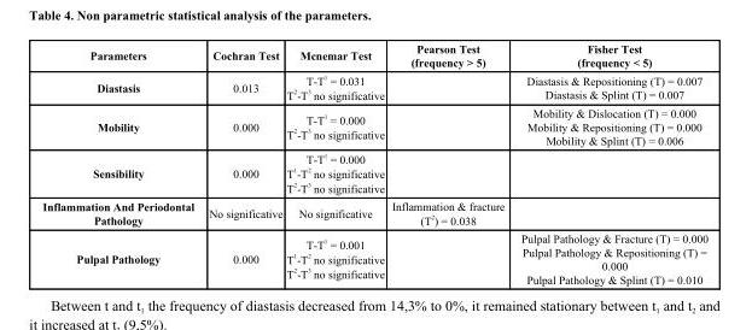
<table><thead><tr><td>Parameters</td><td>Cochran Test</td><td>Mcnemar Test</td><td>Pearson Test (frequency &gt; 5)</td><td>Fisher Test (frequency &lt; 5)</td></tr></thead><tbody><tr><td>Diastasis</td><td>0.013</td><td>T-T 1 = 0.031 T 2-T 3 no significative</td><td></td><td>Diastasis &amp; Repositioning (T) = 0.007 Diastasis &amp; Splint (T) = 0.007</td></tr><tr><td>Mobility</td><td>0.000</td><td>T-T 1 = 0.000 T 2-T 3 no significative</td><td></td><td>Mobility &amp; Dislocation (T) = 0.000 Mobility &amp; Repositioning (T) = 0.000 Mobility &amp; Splint (T) = 0.006</td></tr><tr><td>Sensibility</td><td>0.000</td><td>T-T 1 = 0.000 T 1-T 2 no significative T 2-T 3 no significative</td><td></td><td></td></tr><tr><td>Inflammation And Periodontal Pathology</td><td>No significative</td><td>No significative</td><td>Inflammation &amp; fracture (T <sup>2</sup>) = 0.038</td><td></td></tr><tr><td>Pulpal Pathology</td><td>0.000</td><td>T-T 1 = 0.001 T 1-T 2 no significative T 2-T 3 no significative</td><td></td><td>Pulpal Pathology &amp; Fracture (T) = 0.000 Pulpal Pathology &amp; Repositioning (T) = 0.000 Pulpal Pathology &amp; Splint (T) = 0.010</td></tr></tbody></table>